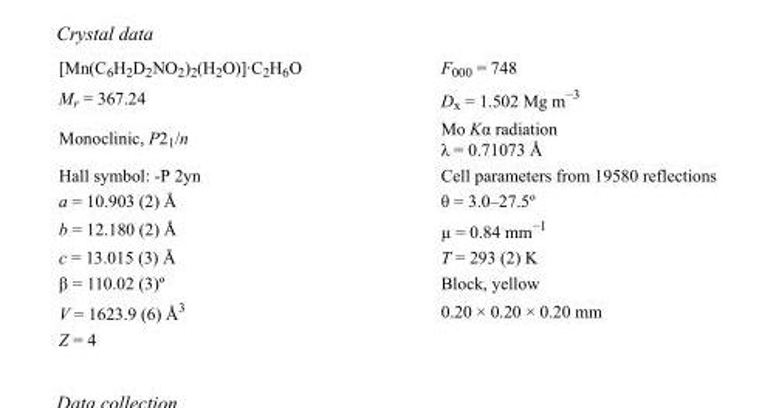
<table><tbody><tr><td>[Mn(C<sub>6</sub>H<sub>2</sub>D<sub>2</sub>NO<sub>2</sub>)<sub>2</sub>(H<sub>2</sub>O)]·C<sub>2</sub>H<sub>6</sub>O</td><td>F<sub>000</sub> = 748</td></tr><tr><td>M<sub>r</sub> = 367.24</td><td>D<sub>x</sub> = 1.502 Mg m<sup>−3</sup></td></tr><tr><td>Monoclinic, P2<sub>1</sub>/n</td><td>Mo Kα radiation λ = 0.71073 Å</td></tr><tr><td>Hall symbol: -P 2yn</td><td>Cell parameters from 19580 reflections</td></tr><tr><td>a = 10.903 (2) Å</td><td>θ = 3.0–27.5º</td></tr><tr><td>b = 12.180 (2) Å</td><td>µ = 0.84 mm<sup>−1</sup></td></tr><tr><td>c = 13.015 (3) Å</td><td>T = 293 (2) K</td></tr><tr><td>β = 110.02 (3)º</td><td>Block, yellow</td></tr><tr><td>V = 1623.9 (6) Å<sup>3</sup></td><td>0.20 × 0.20 × 0.20 mm</td></tr><tr><td>Z = 4</td><td></td></tr></tbody></table>